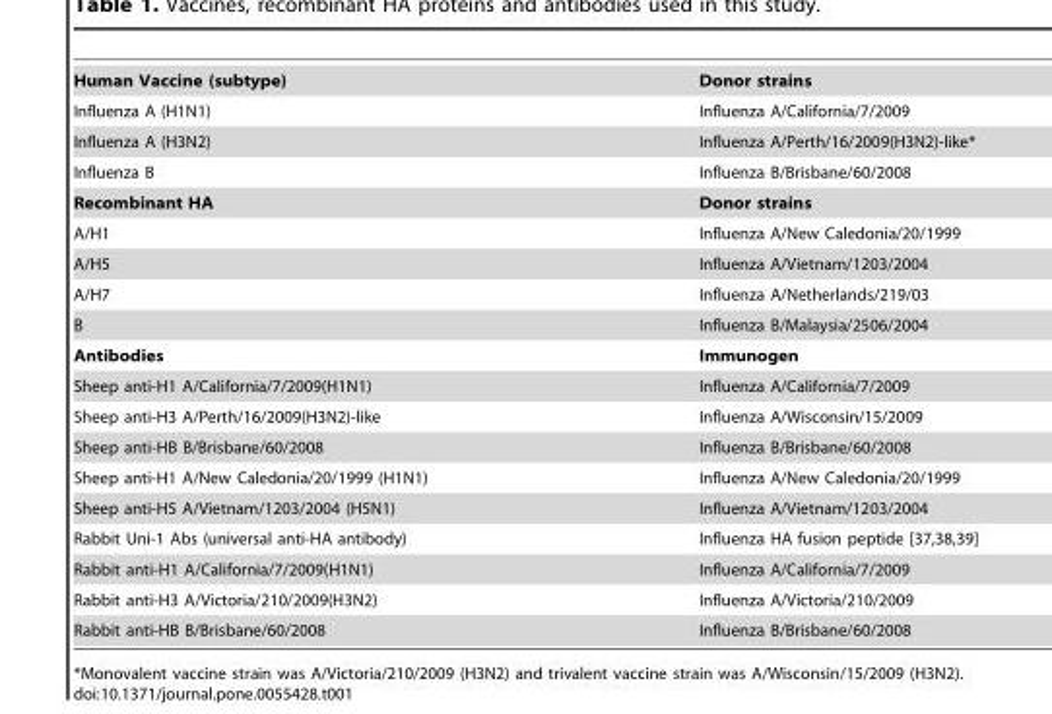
<table><tbody><tr><td>Human Vaccine (subtype)</td><td>Donor strains</td></tr><tr><td>Influenza A (H1N1)</td><td>Influenza A/California/7/2009</td></tr><tr><td>Influenza A (H3N2)</td><td>Influenza A/Perth/16/2009(H3N2)-like*</td></tr><tr><td>Influenza B</td><td>Influenza B/Brisbane/60/2008</td></tr><tr><td>Recombinant HA</td><td>Donor strains</td></tr><tr><td>A/H1</td><td>Influenza A/New Caledonia/20/1999</td></tr><tr><td>A/H5</td><td>Influenza A/Vietnam/1203/2004</td></tr><tr><td>A/H7</td><td>Influenza A/Netherlands/219/03</td></tr><tr><td>B</td><td>Influenza B/Malaysia/2506/2004</td></tr><tr><td>Antibodies</td><td>Immunogen</td></tr><tr><td>Sheep anti-H1 A/California/7/2009(H1N1)</td><td>Influenza A/California/7/2009</td></tr><tr><td>Sheep anti-H3 A/Perth/16/2009(H3N2)-like</td><td>Influenza A/Wisconsin/15/2009</td></tr><tr><td>Sheep anti-HB B/Brisbane/60/2008</td><td>Influenza B/Brisbane/60/2008</td></tr><tr><td>Sheep anti-H1 A/New Caledonia/20/1999 (H1N1)</td><td>Influenza A/New Caledonia/20/1999</td></tr><tr><td>Sheep anti-H5 A/Vietnam/1203/2004 (H5N1)</td><td>Influenza A/Vietnam/1203/2004</td></tr><tr><td>Rabbit Uni-1 Abs (universal anti-HA antibody)</td><td>Influenza HA fusion peptide [37,38,39]</td></tr><tr><td>Rabbit anti-H1 A/California/7/2009(H1N1)</td><td>Influenza A/California/7/2009</td></tr><tr><td>Rabbit anti-H3 A/Victoria/210/2009(H3N2)</td><td>Influenza A/Victoria/210/2009</td></tr><tr><td>Rabbit anti-HB B/Brisbane/60/2008</td><td>Influenza B/Brisbane/60/2008</td></tr></tbody></table>